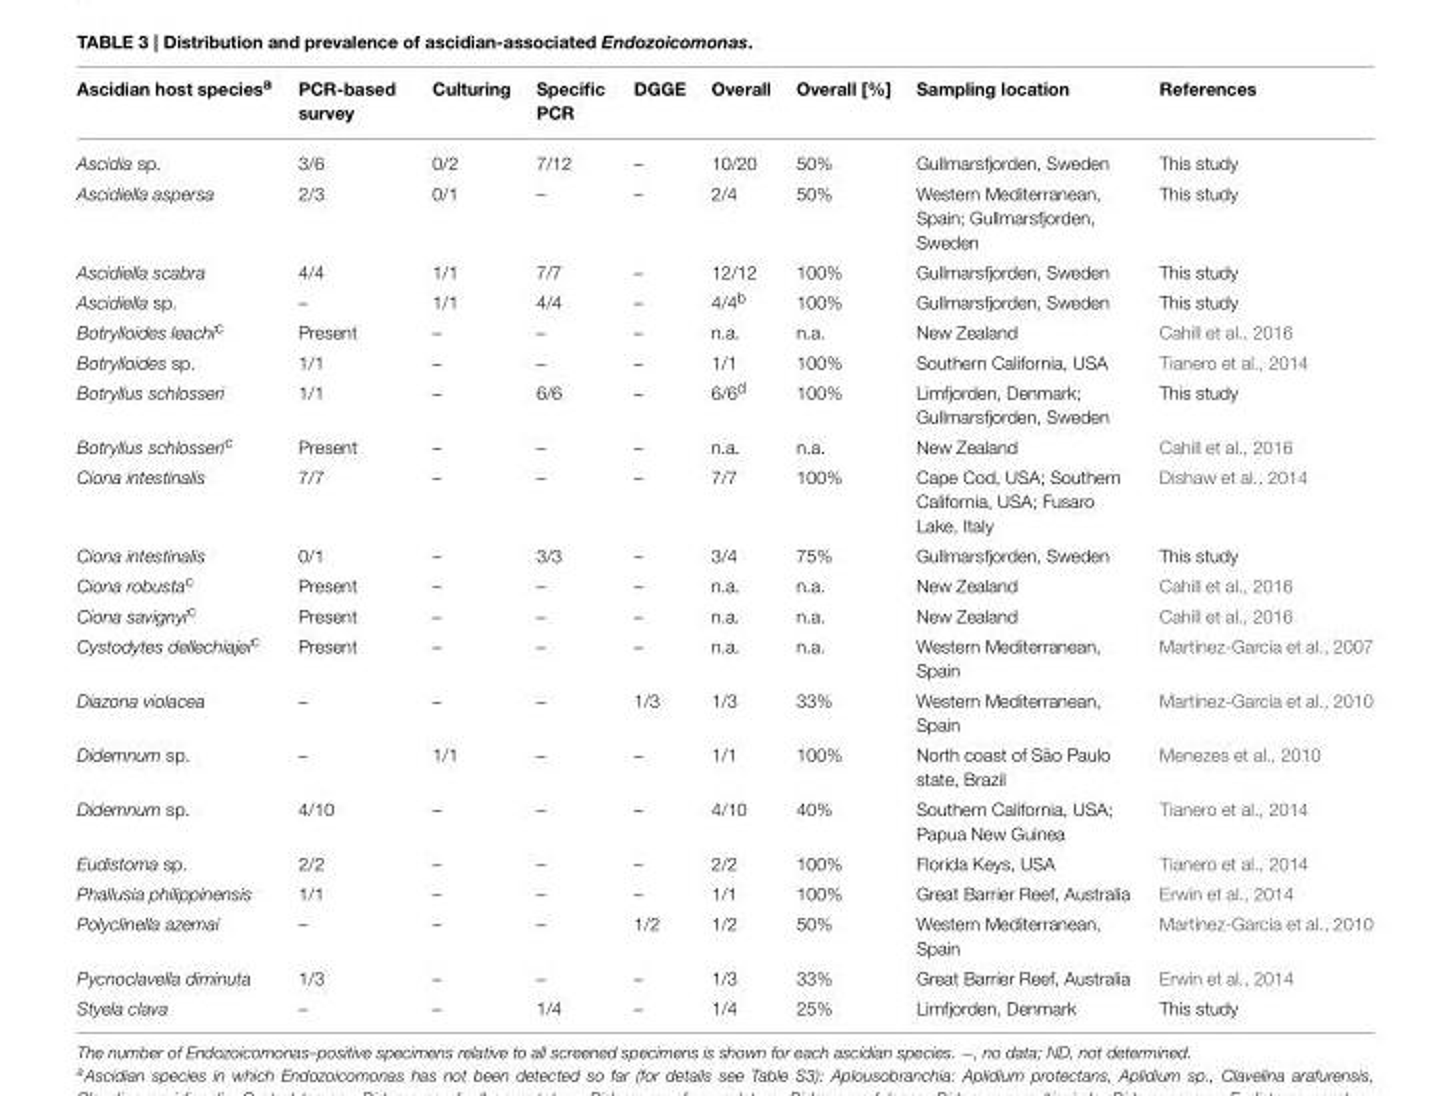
<table><thead><tr><td>Ascidian host species<sup>a</sup></td><td>PCR-based survey</td><td>Culturing</td><td>Specific PCR</td><td>DGGE</td><td>Overall</td><td>Overall [%]</td><td>Sampling location</td><td>References</td></tr></thead><tbody><tr><td>Ascidia sp.</td><td>3/6</td><td>0/2</td><td>7/12</td><td>–</td><td>10/20</td><td>50%</td><td>Gullmarsfjorden, Sweden</td><td>This study</td></tr><tr><td>Ascidiella aspersa</td><td>2/3</td><td>0/1</td><td>–</td><td>–</td><td>2/4</td><td>50%</td><td>Western Mediterranean, Spain; Gullmarsfjorden, Sweden</td><td>This study</td></tr><tr><td>Ascidiella scabra</td><td>4/4</td><td>1/1</td><td>7/7</td><td>–</td><td>12/12</td><td>100%</td><td>Gullmarsfjorden, Sweden</td><td>This study</td></tr><tr><td>Ascidiella sp.</td><td>–</td><td>1/1</td><td>4/4</td><td>–</td><td>4/4<sup>b</sup></td><td>100%</td><td>Gullmarsfjorden, Sweden</td><td>This study</td></tr><tr><td>Botrylloides leachi<sup>c</sup></td><td>Present</td><td>–</td><td>–</td><td>–</td><td>n.a.</td><td>n.a.</td><td>New Zealand</td><td>Cahill et al., 2016</td></tr><tr><td>Botrylloides sp.</td><td>1/1</td><td>–</td><td>–</td><td>–</td><td>1/1</td><td>100%</td><td>Southern California, USA</td><td>Tianero et al., 2014</td></tr><tr><td>Botryllus schlosseri</td><td>1/1</td><td>–</td><td>6/6</td><td>–</td><td>6/6<sup>d</sup></td><td>100%</td><td>Limfjorden, Denmark; Gullmarsfjorden, Sweden</td><td>This study</td></tr><tr><td>Botryllus schlosseri<sup>c</sup></td><td>Present</td><td>–</td><td>–</td><td>–</td><td>n.a.</td><td>n.a.</td><td>New Zealand</td><td>Cahill et al., 2016</td></tr><tr><td>Ciona intestinalis</td><td>7/7</td><td>–</td><td>–</td><td>–</td><td>7/7</td><td>100%</td><td>Cape Cod, USA; Southern California, USA; Fusaro Lake, Italy</td><td>Dishaw et al., 2014</td></tr><tr><td>Ciona intestinalis</td><td>0/1</td><td>–</td><td>3/3</td><td>–</td><td>3/4</td><td>75%</td><td>Gullmarsfjorden, Sweden</td><td>This study</td></tr><tr><td>Ciona robusta<sup>c</sup></td><td>Present</td><td>–</td><td>–</td><td>–</td><td>n.a.</td><td>n.a.</td><td>New Zealand</td><td>Cahill et al., 2016</td></tr><tr><td>Ciona savignyi<sup>c</sup></td><td>Present</td><td>–</td><td>–</td><td>–</td><td>n.a.</td><td>n.a.</td><td>New Zealand</td><td>Cahill et al., 2016</td></tr><tr><td>Cystodytes dellechiajei<sup>c</sup></td><td>Present</td><td>–</td><td>–</td><td>–</td><td>n.a.</td><td>n.a.</td><td>Western Mediterranean, Spain</td><td>Martínez-García et al., 2007</td></tr><tr><td>Diazona violacea</td><td>–</td><td>–</td><td>–</td><td>1/3</td><td>1/3</td><td>33%</td><td>Western Mediterranean, Spain</td><td>Martínez-García et al., 2010</td></tr><tr><td>Didemnum sp.</td><td>–</td><td>1/1</td><td>–</td><td>–</td><td>1/1</td><td>100%</td><td>North coast of São Paulo state, Brazil</td><td>Menezes et al., 2010</td></tr><tr><td>Didemnum sp.</td><td>4/10</td><td>–</td><td>–</td><td>–</td><td>4/10</td><td>40%</td><td>Southern California, USA; Papua New Guinea</td><td>Tianero et al., 2014</td></tr><tr><td>Eudistoma sp.</td><td>2/2</td><td>–</td><td>–</td><td>–</td><td>2/2</td><td>100%</td><td>Florida Keys, USA</td><td>Tianero et al., 2014</td></tr><tr><td>Phallusia philippinensis</td><td>1/1</td><td>–</td><td>–</td><td>–</td><td>1/1</td><td>100%</td><td>Great Barrier Reef, Australia</td><td>Erwin et al., 2014</td></tr><tr><td>Polyclinella azemai</td><td>–</td><td>–</td><td>–</td><td>1/2</td><td>1/2</td><td>50%</td><td>Western Mediterranean, Spain</td><td>Martínez-García et al., 2010</td></tr><tr><td>Pycnoclavella diminuta</td><td>1/3</td><td>–</td><td>–</td><td>–</td><td>1/3</td><td>33%</td><td>Great Barrier Reef, Australia</td><td>Erwin et al., 2014</td></tr><tr><td>Styela clava</td><td>–</td><td>–</td><td>1/4</td><td>–</td><td>1/4</td><td>25%</td><td>Limfjorden, Denmark</td><td>This study</td></tr></tbody></table>